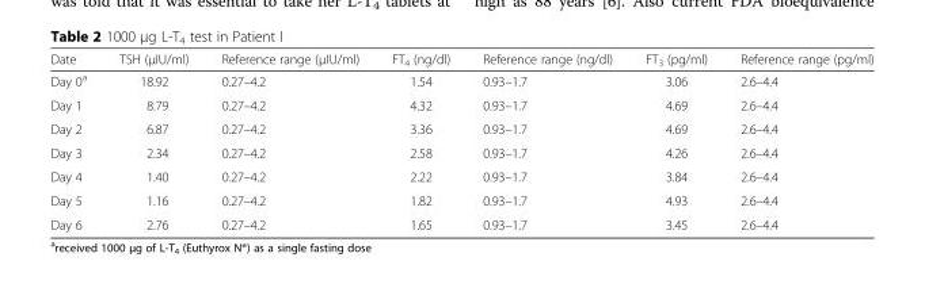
<table><thead><tr><td>Date</td><td>TSH (μIU/ml)</td><td>Reference range (μIU/ml)</td><td>FT<sub>4</sub> (ng/dl)</td><td>Reference range (ng/dl)</td><td>FT<sub>3</sub> (pg/ml)</td><td>Reference range (pg/ml)</td></tr></thead><tbody><tr><td>Day 0<sup>a</sup></td><td>18.92</td><td>0.27–4.2</td><td>1.54</td><td>0.93–1.7</td><td>3.06</td><td>2.6–4.4</td></tr><tr><td>Day 1</td><td>8.79</td><td>0.27–4.2</td><td>4.32</td><td>0.93–1.7</td><td>4.69</td><td>2.6–4.4</td></tr><tr><td>Day 2</td><td>6.87</td><td>0.27–4.2</td><td>3.36</td><td>0.93–1.7</td><td>4.69</td><td>2.6–4.4</td></tr><tr><td>Day 3</td><td>2.34</td><td>0.27–4.2</td><td>2.58</td><td>0.93–1.7</td><td>4.26</td><td>2.6–4.4</td></tr><tr><td>Day 4</td><td>1.40</td><td>0.27–4.2</td><td>2.22</td><td>0.93–1.7</td><td>3.84</td><td>2.6–4.4</td></tr><tr><td>Day 5</td><td>1.16</td><td>0.27–4.2</td><td>1.82</td><td>0.93–1.7</td><td>4.93</td><td>2.6–4.4</td></tr><tr><td>Day 6</td><td>2.76</td><td>0.27–4.2</td><td>1.65</td><td>0.93–1.7</td><td>3.45</td><td>2.6–4.4</td></tr></tbody></table>